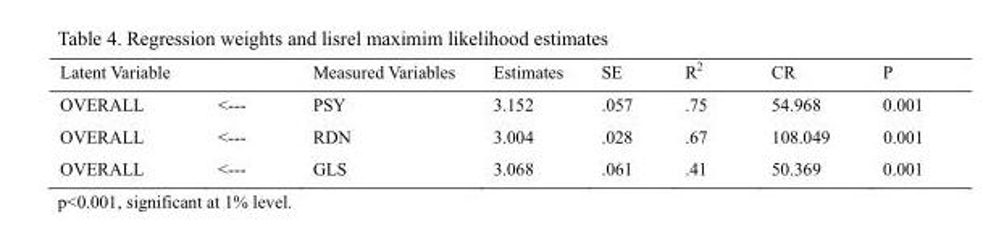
<table><thead><tr><td>Latent Variable</td><td></td><td>Measured Variables</td><td>Estimates</td><td>SE</td><td>R<sup>2</sup></td><td>CR</td><td>P</td></tr></thead><tbody><tr><td>OVERALL</td><td>&lt;---</td><td>PSY</td><td>3.152</td><td>.057</td><td>.75</td><td>54.968</td><td>0.001</td></tr><tr><td>OVERALL</td><td>&lt;---</td><td>RDN</td><td>3.004</td><td>.028</td><td>.67</td><td>108.049</td><td>0.001</td></tr><tr><td>OVERALL</td><td>&lt;---</td><td>GLS</td><td>3.068</td><td>.061</td><td>.41</td><td>50.369</td><td>0.001</td></tr></tbody></table>